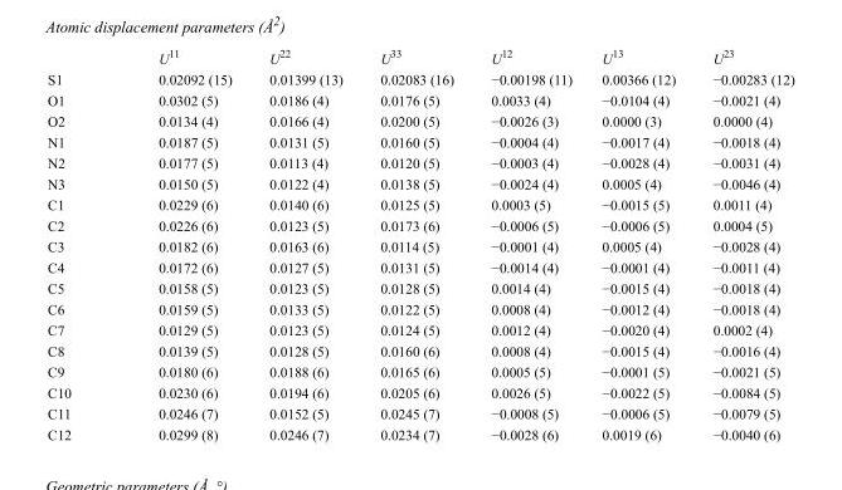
<table><thead><tr><td></td><td>U<sup>11</sup></td><td>U<sup>22</sup></td><td>U<sup>33</sup></td><td>U<sup>12</sup></td><td>U<sup>13</sup></td><td>U<sup>23</sup></td></tr></thead><tbody><tr><td>S1</td><td>0.02092 (15)</td><td>0.01399 (13)</td><td>0.02083 (16)</td><td>−0.00198 (11)</td><td>0.00366 (12)</td><td>−0.00283 (12)</td></tr><tr><td>O1</td><td>0.0302 (5)</td><td>0.0186 (4)</td><td>0.0176 (5)</td><td>0.0033 (4)</td><td>−0.0104 (4)</td><td>−0.0021 (4)</td></tr><tr><td>O2</td><td>0.0134 (4)</td><td>0.0166 (4)</td><td>0.0200 (5)</td><td>−0.0026 (3)</td><td>0.0000 (3)</td><td>0.0000 (4)</td></tr><tr><td>N1</td><td>0.0187 (5)</td><td>0.0131 (5)</td><td>0.0160 (5)</td><td>−0.0004 (4)</td><td>−0.0017 (4)</td><td>−0.0018 (4)</td></tr><tr><td>N2</td><td>0.0177 (5)</td><td>0.0113 (4)</td><td>0.0120 (5)</td><td>−0.0003 (4)</td><td>−0.0028 (4)</td><td>−0.0031 (4)</td></tr><tr><td>N3</td><td>0.0150 (5)</td><td>0.0122 (4)</td><td>0.0138 (5)</td><td>−0.0024 (4)</td><td>0.0005 (4)</td><td>−0.0046 (4)</td></tr><tr><td>C1</td><td>0.0229 (6)</td><td>0.0140 (6)</td><td>0.0125 (5)</td><td>0.0003 (5)</td><td>−0.0015 (5)</td><td>0.0011 (4)</td></tr><tr><td>C2</td><td>0.0226 (6)</td><td>0.0123 (5)</td><td>0.0173 (6)</td><td>−0.0006 (5)</td><td>−0.0006 (5)</td><td>0.0004 (5)</td></tr><tr><td>C3</td><td>0.0182 (6)</td><td>0.0163 (6)</td><td>0.0114 (5)</td><td>−0.0001 (4)</td><td>0.0005 (4)</td><td>−0.0028 (4)</td></tr><tr><td>C4</td><td>0.0172 (6)</td><td>0.0127 (5)</td><td>0.0131 (5)</td><td>−0.0014 (4)</td><td>−0.0001 (4)</td><td>−0.0011 (4)</td></tr><tr><td>C5</td><td>0.0158 (5)</td><td>0.0123 (5)</td><td>0.0128 (5)</td><td>0.0014 (4)</td><td>−0.0015 (4)</td><td>−0.0018 (4)</td></tr><tr><td>C6</td><td>0.0159 (5)</td><td>0.0133 (5)</td><td>0.0122 (5)</td><td>0.0008 (4)</td><td>−0.0012 (4)</td><td>−0.0018 (4)</td></tr><tr><td>C7</td><td>0.0129 (5)</td><td>0.0123 (5)</td><td>0.0124 (5)</td><td>0.0012 (4)</td><td>−0.0020 (4)</td><td>0.0002 (4)</td></tr><tr><td>C8</td><td>0.0139 (5)</td><td>0.0128 (5)</td><td>0.0160 (6)</td><td>0.0008 (4)</td><td>−0.0015 (4)</td><td>−0.0016 (4)</td></tr><tr><td>C9</td><td>0.0180 (6)</td><td>0.0188 (6)</td><td>0.0165 (6)</td><td>0.0005 (5)</td><td>−0.0001 (5)</td><td>−0.0021 (5)</td></tr><tr><td>C10</td><td>0.0230 (6)</td><td>0.0194 (6)</td><td>0.0205 (6)</td><td>0.0026 (5)</td><td>−0.0022 (5)</td><td>−0.0084 (5)</td></tr><tr><td>C11</td><td>0.0246 (7)</td><td>0.0152 (5)</td><td>0.0245 (7)</td><td>−0.0008 (5)</td><td>−0.0006 (5)</td><td>−0.0079 (5)</td></tr><tr><td>C12</td><td>0.0299 (8)</td><td>0.0246 (7)</td><td>0.0234 (7)</td><td>−0.0028 (6)</td><td>0.0019 (6)</td><td>−0.0040 (6)</td></tr></tbody></table>